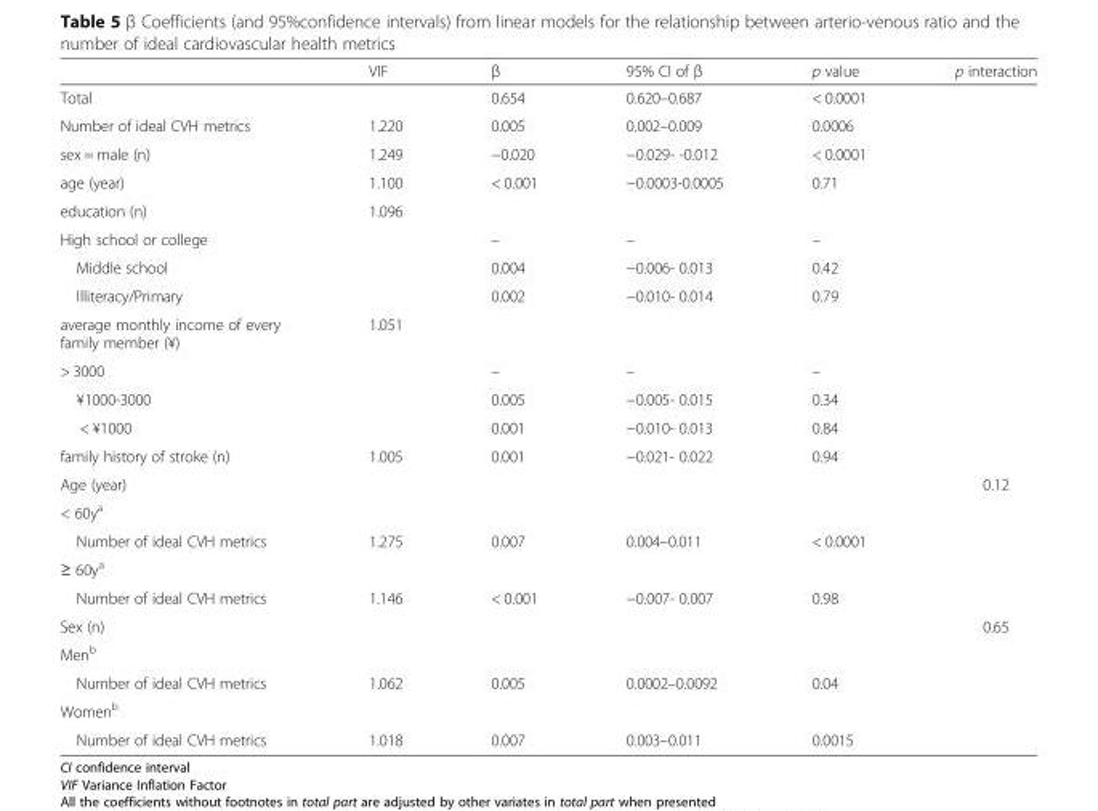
<table><thead><tr><td></td><td>VIF</td><td>β</td><td>95% CI of β</td><td>p value</td><td>p interaction</td></tr></thead><tbody><tr><td>Total</td><td></td><td>0.654</td><td>0.620–0.687</td><td>&lt; 0.0001</td><td></td></tr><tr><td>Number of ideal CVH metrics</td><td>1.220</td><td>0.005</td><td>0.002–0.009</td><td>0.0006</td><td></td></tr><tr><td>sex = male (n)</td><td>1.249</td><td>−0.020</td><td>−0.029- -0.012</td><td>&lt; 0.0001</td><td></td></tr><tr><td>age (year)</td><td>1.100</td><td>&lt; 0.001</td><td>−0.0003-0.0005</td><td>0.71</td><td></td></tr><tr><td>education (n)</td><td>1.096</td><td></td><td></td><td></td><td></td></tr><tr><td>High school or college</td><td></td><td>–</td><td>–</td><td>–</td><td></td></tr><tr><td>Middle school</td><td></td><td>0.004</td><td>−0.006- 0.013</td><td>0.42</td><td></td></tr><tr><td>Illiteracy/Primary</td><td></td><td>0.002</td><td>−0.010- 0.014</td><td>0.79</td><td></td></tr><tr><td>average monthly income of every family member (¥)</td><td>1.051</td><td></td><td></td><td></td><td></td></tr><tr><td>&gt; 3000</td><td></td><td>–</td><td>–</td><td>–</td><td></td></tr><tr><td>¥1000-3000</td><td></td><td>0.005</td><td>−0.005- 0.015</td><td>0.34</td><td></td></tr><tr><td>&lt; ¥1000</td><td></td><td>0.001</td><td>−0.010- 0.013</td><td>0.84</td><td></td></tr><tr><td>family history of stroke (n)</td><td>1.005</td><td>0.001</td><td>−0.021- 0.022</td><td>0.94</td><td></td></tr><tr><td>Age (year)</td><td></td><td></td><td></td><td></td><td>0.12</td></tr><tr><td colspan="6">&lt; 60y<sup>a</sup></td></tr><tr><td>Number of ideal CVH metrics</td><td>1.275</td><td>0.007</td><td>0.004–0.011</td><td>&lt; 0.0001</td><td></td></tr><tr><td colspan="6">≥ 60y<sup>a</sup></td></tr><tr><td>Number of ideal CVH metrics</td><td>1.146</td><td>&lt; 0.001</td><td>−0.007- 0.007</td><td>0.98</td><td></td></tr><tr><td>Sex (n)</td><td></td><td></td><td></td><td></td><td>0.65</td></tr><tr><td colspan="6">Men<sup>b</sup></td></tr><tr><td>Number of ideal CVH metrics</td><td>1.062</td><td>0.005</td><td>0.0002–0.0092</td><td>0.04</td><td></td></tr><tr><td colspan="6">Women<sup>b</sup></td></tr><tr><td>Number of ideal CVH metrics</td><td>1.018</td><td>0.007</td><td>0.003–0.011</td><td>0.0015</td><td></td></tr></tbody></table>